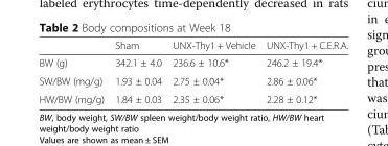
<table><thead><tr><td></td><td>Sham</td><td>UNX-Thy1 + Vehicle</td><td>UNX-Thy1 + C.E.R.A.</td></tr></thead><tbody><tr><td>BW (g)</td><td>342.1 ± 4.0</td><td>236.6 ± 10.6*</td><td>246.2 ± 19.4*</td></tr><tr><td>SW/BW (mg/g)</td><td>1.93 ± 0.04</td><td>2.75 ± 0.04*</td><td>2.86 ± 0.06*</td></tr><tr><td>HW/BW (mg/g)</td><td>1.84 ± 0.03</td><td>2.35 ± 0.06*</td><td>2.28 ± 0.12*</td></tr></tbody></table>